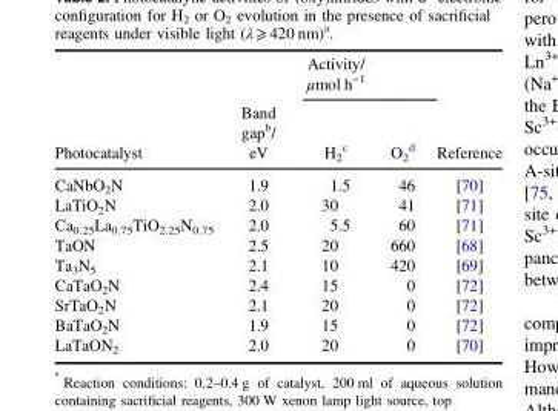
<table><thead><tr><td rowspan="2">Photocatalyst</td><td rowspan="2">Band gap<sup>b</sup>/ eV</td><td rowspan="2">Activity/ μmol h<sup>−1</sup> H<sub>2</sub> <sup>c</sup></td><td rowspan="2">O<sub>2</sub> <sup>d</sup></td><td rowspan="2">Reference</td></tr><tr></tr></thead><tbody><tr><td>CaNbO<sub>2</sub>N</td><td>1.9</td><td>1.5</td><td>46</td><td>[70]</td></tr><tr><td>LaTiO<sub>2</sub>N</td><td>2.0</td><td>30</td><td>41</td><td>[71]</td></tr><tr><td>Ca<sub>0.25</sub>La<sub>0.75</sub>TiO<sub>2.25</sub>N<sub>0.75</sub></td><td>2.0</td><td>5.5</td><td>60</td><td>[71]</td></tr><tr><td>TaON</td><td>2.5</td><td>20</td><td>660</td><td>[68]</td></tr><tr><td>Ta<sub>3</sub>N<sub>5</sub></td><td>2.1</td><td>10</td><td>420</td><td>[69]</td></tr><tr><td>CaTaO<sub>2</sub>N</td><td>2.4</td><td>15</td><td>0</td><td>[72]</td></tr><tr><td>SrTaO<sub>2</sub>N</td><td>2.1</td><td>20</td><td>0</td><td>[72]</td></tr><tr><td>BaTaO<sub>2</sub>N</td><td>1.9</td><td>15</td><td>0</td><td>[72]</td></tr><tr><td>LaTaON<sub>2</sub></td><td>2.0</td><td>20</td><td>0</td><td>[70]</td></tr></tbody></table>